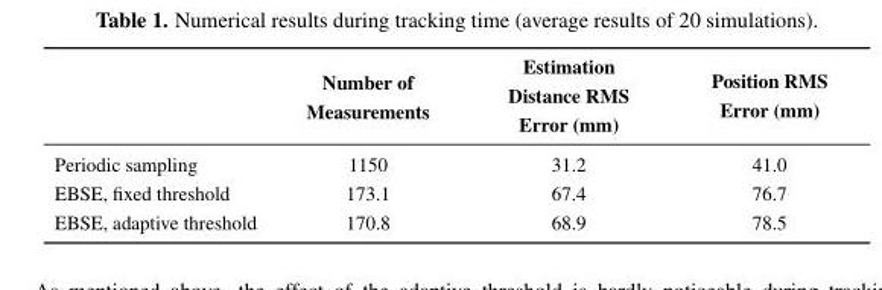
<table><thead><tr><td></td><td>Number of Measurements</td><td>Estimation Distance RMS Error (mm)</td><td>Position RMS Error (mm)</td></tr></thead><tbody><tr><td>Periodic sampling</td><td>1150</td><td>31.2</td><td>41.0</td></tr><tr><td>EBSE, fixed threshold</td><td>173.1</td><td>67.4</td><td>76.7</td></tr><tr><td>EBSE, adaptive threshold</td><td>170.8</td><td>68.9</td><td>78.5</td></tr></tbody></table>